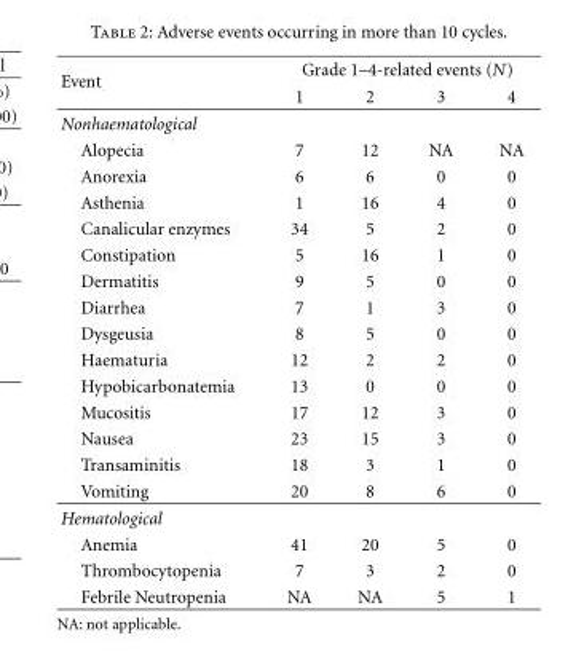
<table><thead><tr><td rowspan="2">Event</td><td colspan="4">Grade 1–4-related events (N)</td></tr><tr><td>1</td><td>2</td><td>3</td><td>4</td></tr></thead><tbody><tr><td colspan="5">Nonhaematological</td></tr><tr><td>Alopecia</td><td>7</td><td>12</td><td>NA</td><td>NA</td></tr><tr><td>Anorexia</td><td>6</td><td>6</td><td>0</td><td>0</td></tr><tr><td>Asthenia</td><td>1</td><td>16</td><td>4</td><td>0</td></tr><tr><td>Canalicular enzymes</td><td>34</td><td>5</td><td>2</td><td>0</td></tr><tr><td>Constipation</td><td>5</td><td>16</td><td>1</td><td>0</td></tr><tr><td>Dermatitis</td><td>9</td><td>5</td><td>0</td><td>0</td></tr><tr><td>Diarrhea</td><td>7</td><td>1</td><td>3</td><td>0</td></tr><tr><td>Dysgeusia</td><td>8</td><td>5</td><td>0</td><td>0</td></tr><tr><td>Haematuria</td><td>12</td><td>2</td><td>2</td><td>0</td></tr><tr><td>Hypobicarbonatemia</td><td>13</td><td>0</td><td>0</td><td>0</td></tr><tr><td>Mucositis</td><td>17</td><td>12</td><td>3</td><td>0</td></tr><tr><td>Nausea</td><td>23</td><td>15</td><td>3</td><td>0</td></tr><tr><td>Transaminitis</td><td>18</td><td>3</td><td>1</td><td>0</td></tr><tr><td>Vomiting</td><td>20</td><td>8</td><td>6</td><td>0</td></tr><tr><td colspan="5">Hematological</td></tr><tr><td>Anemia</td><td>41</td><td>20</td><td>5</td><td>0</td></tr><tr><td>Thrombocytopenia</td><td>7</td><td>3</td><td>2</td><td>0</td></tr><tr><td>Febrile Neutropenia</td><td>NA</td><td>NA</td><td>5</td><td>1</td></tr></tbody></table>